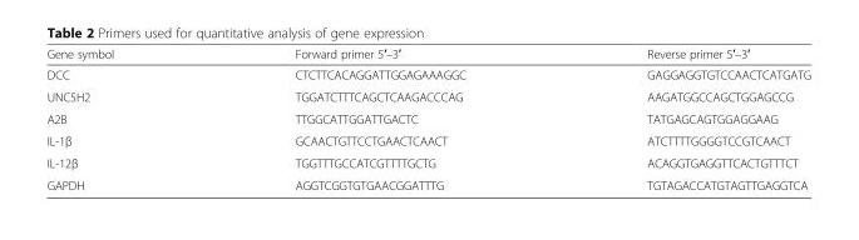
<table><thead><tr><td>Gene symbol</td><td>Forward primer 5′–3′</td><td>Reverse primer 5′–3′</td></tr></thead><tbody><tr><td>DCC</td><td>CTCTTCACAGGATTGGAGAAAGGC</td><td>GAGGAGGTGTCCAACTCATGATG</td></tr><tr><td>UNC5H2</td><td>TGGATCTTTCAGCTCAAGACCCAG</td><td>AAGATGGCCAGCTGGAGCCG</td></tr><tr><td>A2B</td><td>TTGGCATTGGATTGACTC</td><td>TATGAGCAGTGGAGGAAG</td></tr><tr><td>IL-1β</td><td>GCAACTGTTCCTGAACTCAACT</td><td>ATCTTTTGGGGTCCGTCAACT</td></tr><tr><td>IL-12β</td><td>TGGTTTGCCATCGTTTTGCTG</td><td>ACAGGTGAGGTTCACTGTTTCT</td></tr><tr><td>GAPDH</td><td>AGGTCGGTGTGAACGGATTTG</td><td>TGTAGACCATGTAGTTGAGGTCA</td></tr></tbody></table>